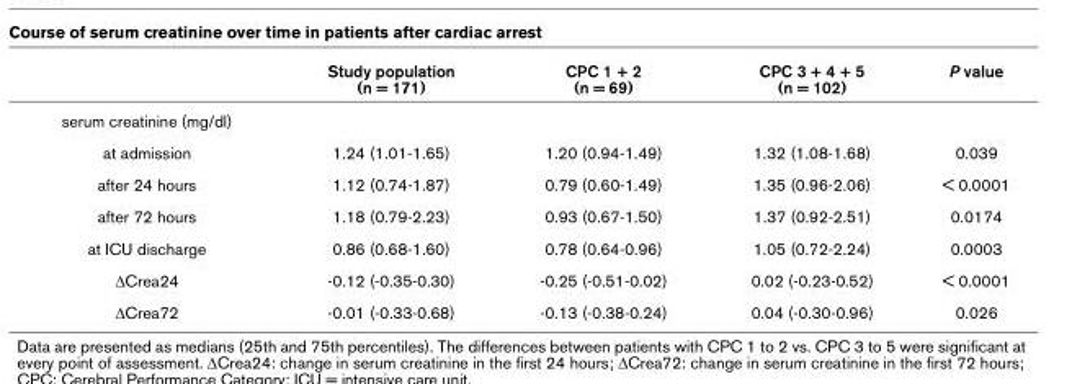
<table><thead><tr><td></td><td>Study population (n = 171)</td><td>CPC 1 + 2 (n = 69)</td><td>CPC 3 + 4 + 5 (n = 102)</td><td>P value</td></tr></thead><tbody><tr><td colspan="5">serum creatinine (mg/dl)</td></tr><tr><td>at admission</td><td>1.24 (1.01-1.65)</td><td>1.20 (0.94-1.49)</td><td>1.32 (1.08-1.68)</td><td>0.039</td></tr><tr><td>after 24 hours</td><td>1.12 (0.74-1.87)</td><td>0.79 (0.60-1.49)</td><td>1.35 (0.96-2.06)</td><td>&lt; 0.0001</td></tr><tr><td>after 72 hours</td><td>1.18 (0.79-2.23)</td><td>0.93 (0.67-1.50)</td><td>1.37 (0.92-2.51)</td><td>0.0174</td></tr><tr><td>at ICU discharge</td><td>0.86 (0.68-1.60)</td><td>0.78 (0.64-0.96)</td><td>1.05 (0.72-2.24)</td><td>0.0003</td></tr><tr><td>ΔCrea24</td><td>-0.12 (-0.35-0.30)</td><td>-0.25 (-0.51-0.02)</td><td>0.02 (-0.23-0.52)</td><td>&lt; 0.0001</td></tr><tr><td>ΔCrea72</td><td>-0.01 (-0.33-0.68)</td><td>-0.13 (-0.38-0.24)</td><td>0.04 (-0.30-0.96)</td><td>0.026</td></tr></tbody></table>